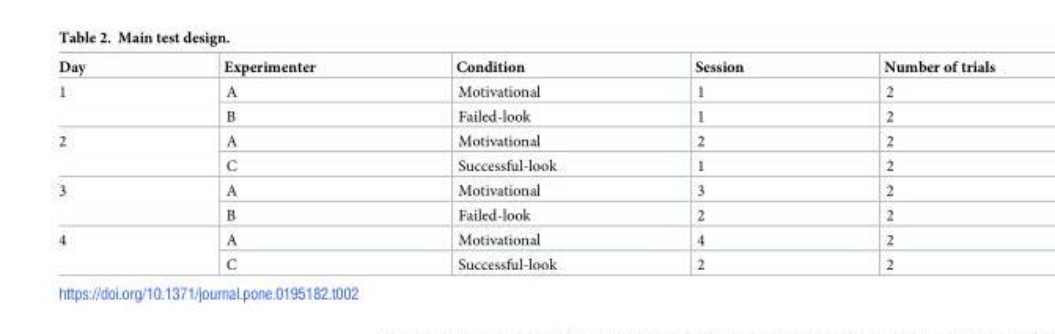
<table><thead><tr><td>Day</td><td>Experimenter</td><td>Condition</td><td>Session</td><td>Number of trials</td></tr></thead><tbody><tr><td rowspan="2">1</td><td>A</td><td>Motivational</td><td>1</td><td>2</td></tr><tr><td>B</td><td>Failed-look</td><td>1</td><td>2</td></tr><tr><td rowspan="2">2</td><td>A</td><td>Motivational</td><td>2</td><td>2</td></tr><tr><td>C</td><td>Successful-look</td><td>1</td><td>2</td></tr><tr><td rowspan="2">3</td><td>A</td><td>Motivational</td><td>3</td><td>2</td></tr><tr><td>B</td><td>Failed-look</td><td>2</td><td>2</td></tr><tr><td rowspan="2">4</td><td>A</td><td>Motivational</td><td>4</td><td>2</td></tr><tr><td>C</td><td>Successful-look</td><td>2</td><td>2</td></tr></tbody></table>